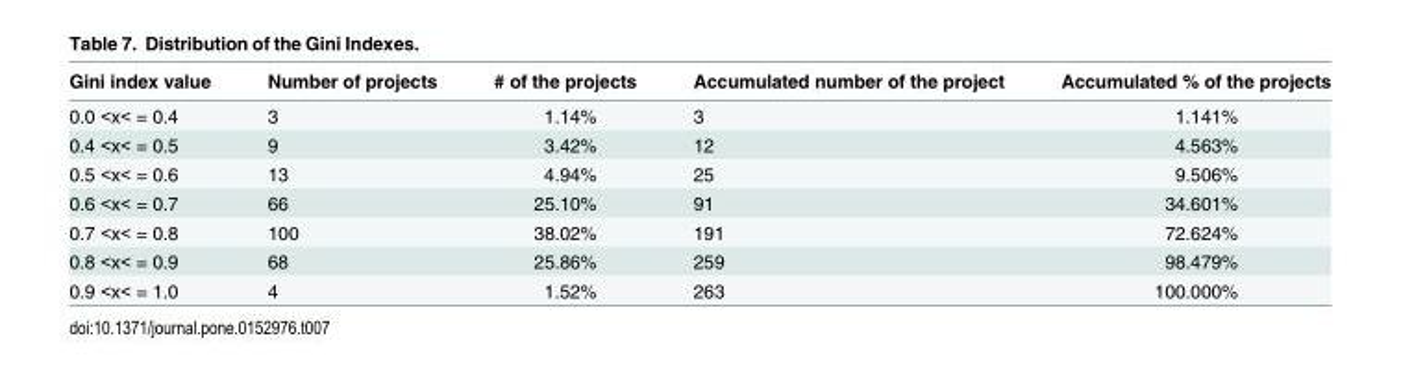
<table><thead><tr><td>Gini index value</td><td>Number of projects</td><td># of the projects</td><td>Accumulated number of the project</td><td>Accumulated % of the projects</td></tr></thead><tbody><tr><td>0.0 &lt;x&lt; = 0.4</td><td>3</td><td>1.14%</td><td>3</td><td>1.141%</td></tr><tr><td>0.4 &lt;x&lt; = 0.5</td><td>9</td><td>3.42%</td><td>12</td><td>4.563%</td></tr><tr><td>0.5 &lt;x&lt; = 0.6</td><td>13</td><td>4.94%</td><td>25</td><td>9.506%</td></tr><tr><td>0.6 &lt;x&lt; = 0.7</td><td>66</td><td>25.10%</td><td>91</td><td>34.601%</td></tr><tr><td>0.7 &lt;x&lt; = 0.8</td><td>100</td><td>38.02%</td><td>191</td><td>72.624%</td></tr><tr><td>0.8 &lt;x&lt; = 0.9</td><td>68</td><td>25.86%</td><td>259</td><td>98.479%</td></tr><tr><td>0.9 &lt;x&lt; = 1.0</td><td>4</td><td>1.52%</td><td>263</td><td>100.000%</td></tr></tbody></table>